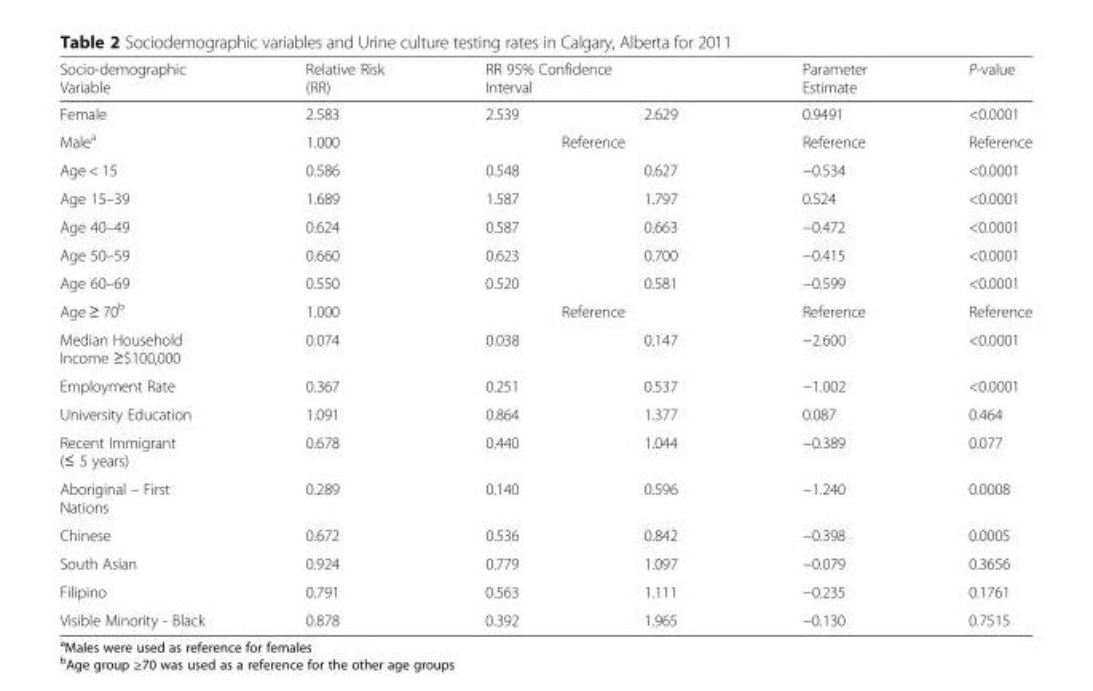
<table><thead><tr><td rowspan="2">Socio-demographic Variable Female</td><td rowspan="2">Relative Risk (RR) 2.583</td><td colspan="2">RR 95% Confidence Interval</td><td rowspan="2">Parameter Estimate 0.9491</td><td rowspan="2">P-value &lt;0.0001</td></tr><tr><td>2.539</td><td>2.629</td></tr></thead><tbody><tr><td>Male<sup>a</sup></td><td>1.000</td><td colspan="2">Reference</td><td>Reference</td><td>Reference</td></tr><tr><td>Age &lt; 15</td><td>0.586</td><td>0.548</td><td>0.627</td><td>−0.534</td><td>&lt;0.0001</td></tr><tr><td>Age 15–39</td><td>1.689</td><td>1.587</td><td>1.797</td><td>0.524</td><td>&lt;0.0001</td></tr><tr><td>Age 40–49</td><td>0.624</td><td>0.587</td><td>0.663</td><td>−0.472</td><td>&lt;0.0001</td></tr><tr><td>Age 50–59</td><td>0.660</td><td>0.623</td><td>0.700</td><td>−0.415</td><td>&lt;0.0001</td></tr><tr><td>Age 60–69</td><td>0.550</td><td>0.520</td><td>0.581</td><td>−0.599</td><td>&lt;0.0001</td></tr><tr><td>Age ≥ 70<sup>b</sup></td><td>1.000</td><td colspan="2">Reference</td><td>Reference</td><td>Reference</td></tr><tr><td>Median Household Income ≥$100,000</td><td>0.074</td><td>0.038</td><td>0.147</td><td>−2.600</td><td>&lt;0.0001</td></tr><tr><td>Employment Rate</td><td>0.367</td><td>0.251</td><td>0.537</td><td>−1.002</td><td>&lt;0.0001</td></tr><tr><td>University Education</td><td>1.091</td><td>0.864</td><td>1.377</td><td>0.087</td><td>0.464</td></tr><tr><td>Recent Immigrant (≤ 5 years)</td><td>0.678</td><td>0.440</td><td>1.044</td><td>−0.389</td><td>0.077</td></tr><tr><td>Aboriginal – First Nations</td><td>0.289</td><td>0.140</td><td>0.596</td><td>−1.240</td><td>0.0008</td></tr><tr><td>Chinese</td><td>0.672</td><td>0.536</td><td>0.842</td><td>−0.398</td><td>0.0005</td></tr><tr><td>South Asian</td><td>0.924</td><td>0.779</td><td>1.097</td><td>−0.079</td><td>0.3656</td></tr><tr><td>Filipino</td><td>0.791</td><td>0.563</td><td>1.111</td><td>−0.235</td><td>0.1761</td></tr><tr><td>Visible Minority - Black</td><td>0.878</td><td>0.392</td><td>1.965</td><td>−0.130</td><td>0.7515</td></tr></tbody></table>